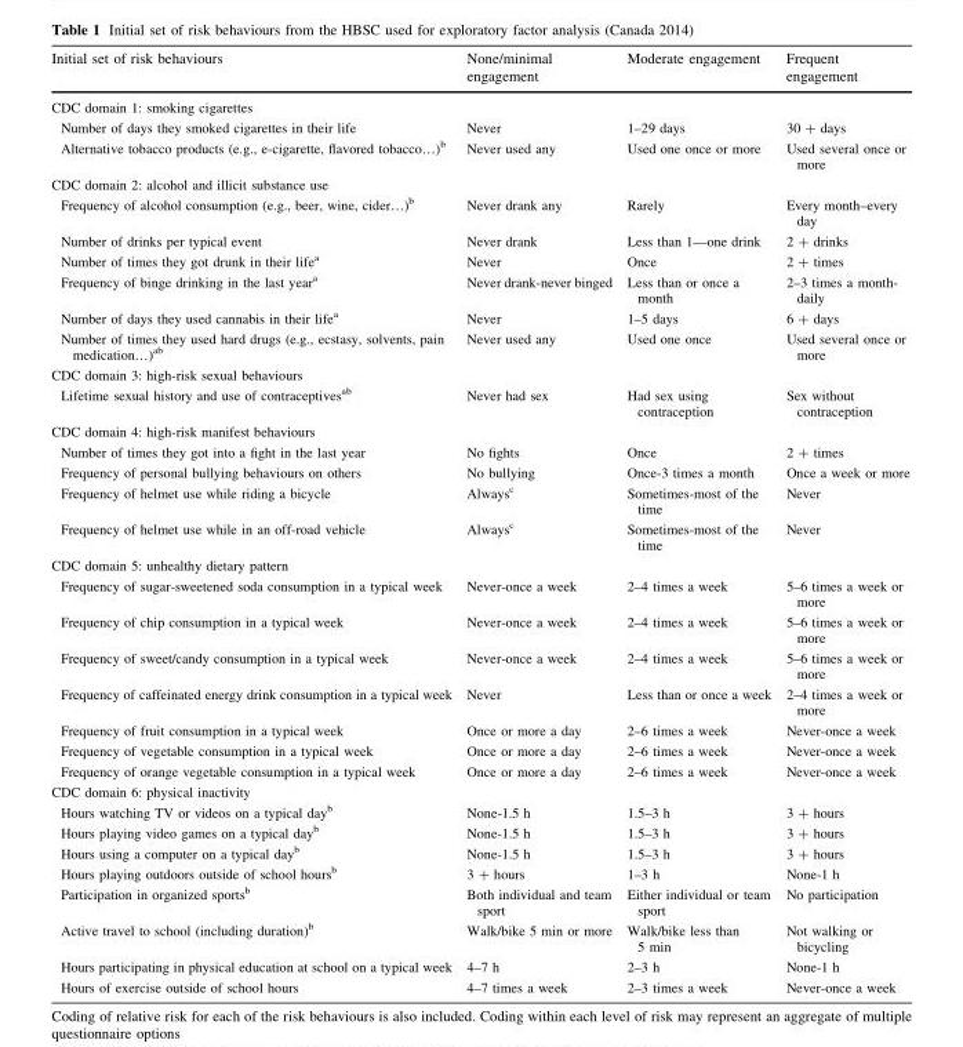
<table><thead><tr><td>Initial set of risk behaviours</td><td>None/minimal engagement</td><td>Moderate engagement</td><td>Frequent engagement</td></tr></thead><tbody><tr><td colspan="4">CDC domain 1: smoking cigarettes</td></tr><tr><td>Number of days they smoked cigarettes in their life</td><td>Never</td><td>1–29 days</td><td>30 + days</td></tr><tr><td>Alternative tobacco products (e.g., e-cigarette, flavored tobacco…)<sup>b</sup></td><td>Never used any</td><td>Used one once or more</td><td>Used several once or more</td></tr><tr><td colspan="4">CDC domain 2: alcohol and illicit substance use</td></tr><tr><td>Frequency of alcohol consumption (e.g., beer, wine, cider…)<sup>b</sup></td><td>Never drank any</td><td>Rarely</td><td>Every month–every day</td></tr><tr><td>Number of drinks per typical event</td><td>Never drank</td><td>Less than 1—one drink</td><td>2 + drinks</td></tr><tr><td>Number of times they got drunk in their life<sup>a</sup></td><td>Never</td><td>Once</td><td>2 + times</td></tr><tr><td>Frequency of binge drinking in the last year<sup>a</sup></td><td>Never drank-never binged</td><td>Less than or once a month</td><td>2–3 times a month- daily</td></tr><tr><td>Number of days they used cannabis in their life<sup>a</sup></td><td>Never</td><td>1–5 days</td><td>6 + days</td></tr><tr><td>Number of times they used hard drugs (e.g., ecstasy, solvents, pain medication…)<sup>ab</sup></td><td>Never used any</td><td>Used one once</td><td>Used several once or more</td></tr><tr><td colspan="4">CDC domain 3: high-risk sexual behaviours</td></tr><tr><td>Lifetime sexual history and use of contraceptives<sup>ab</sup></td><td>Never had sex</td><td>Had sex using contraception</td><td>Sex without contraception</td></tr><tr><td colspan="4">CDC domain 4: high-risk manifest behaviours</td></tr><tr><td>Number of times they got into a fight in the last year</td><td>No fights</td><td>Once</td><td>2 + times</td></tr><tr><td>Frequency of personal bullying behaviours on others</td><td>No bullying</td><td>Once-3 times a month</td><td>Once a week or more</td></tr><tr><td>Frequency of helmet use while riding a bicycle</td><td>Always<sup>c</sup></td><td>Sometimes-most of the time</td><td>Never</td></tr><tr><td>Frequency of helmet use while in an off-road vehicle</td><td>Always<sup>c</sup></td><td>Sometimes-most of the time</td><td>Never</td></tr><tr><td colspan="4">CDC domain 5: unhealthy dietary pattern</td></tr><tr><td>Frequency of sugar-sweetened soda consumption in a typical week</td><td>Never-once a week</td><td>2–4 times a week</td><td>5–6 times a week or more</td></tr><tr><td>Frequency of chip consumption in a typical week</td><td>Never-once a week</td><td>2–4 times a week</td><td>5–6 times a week or more</td></tr><tr><td>Frequency of sweet/candy consumption in a typical week</td><td>Never-once a week</td><td>2–4 times a week</td><td>5–6 times a week or more</td></tr><tr><td>Frequency of caffeinated energy drink consumption in a typical week</td><td>Never</td><td>Less than or once a week</td><td>2–4 times a week or more</td></tr><tr><td>Frequency of fruit consumption in a typical week</td><td>Once or more a day</td><td>2–6 times a week</td><td>Never-once a week</td></tr><tr><td>Frequency of vegetable consumption in a typical week</td><td>Once or more a day</td><td>2–6 times a week</td><td>Never-once a week</td></tr><tr><td>Frequency of orange vegetable consumption in a typical week</td><td>Once or more a day</td><td>2–6 times a week</td><td>Never-once a week</td></tr><tr><td colspan="4">CDC domain 6: physical inactivity</td></tr><tr><td>Hours watching TV or videos on a typical day<sup>b</sup></td><td>None-1.5 h</td><td>1.5–3 h</td><td>3 + hours</td></tr><tr><td>Hours playing video games on a typical day<sup>b</sup></td><td>None-1.5 h</td><td>1.5–3 h</td><td>3 + hours</td></tr><tr><td>Hours using a computer on a typical day<sup>b</sup></td><td>None-1.5 h</td><td>1.5–3 h</td><td>3 + hours</td></tr><tr><td>Hours playing outdoors outside of school hours<sup>b</sup></td><td>3 + hours</td><td>1–3 h</td><td>None-1 h</td></tr><tr><td>Participation in organized sports<sup>b</sup></td><td>Both individual and team sport</td><td>Either individual or team sport</td><td>No participation</td></tr><tr><td>Active travel to school (including duration)<sup>b</sup></td><td>Walk/bike 5 min or more</td><td>Walk/bike less than 5 min</td><td>Not walking or bicycling</td></tr><tr><td>Hours participating in physical education at school on a typical week</td><td>4–7 h</td><td>2–3 h</td><td>None-1 h</td></tr><tr><td>Hours of exercise outside of school hours</td><td>4–7 times a week</td><td>2–3 times a week</td><td>Never-once a week</td></tr></tbody></table>